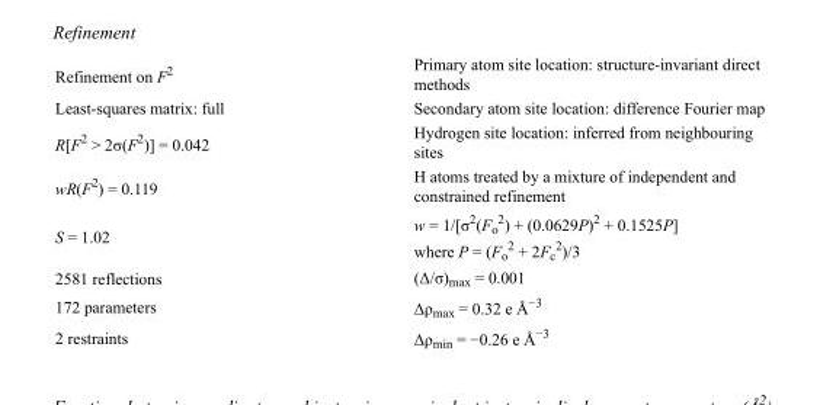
<table><tbody><tr><td>Refinement on F<sup>2</sup></td><td>Primary atom site location: structure-invariant direct methods</td></tr><tr><td>Least-squares matrix: full</td><td>Secondary atom site location: difference Fourier map</td></tr><tr><td>R[F<sup>2</sup> &gt; 2σ(F<sup>2</sup>)] = 0.042</td><td>Hydrogen site location: inferred from neighbouring sites</td></tr><tr><td>wR(F<sup>2</sup>) = 0.119</td><td>H atoms treated by a mixture of independent and constrained refinement</td></tr><tr><td>S = 1.02</td><td>w = 1/[σ<sup>2</sup>(F<sub>o</sub> <sup>2</sup>) + (0.0629P)<sup>2</sup> + 0.1525P] where P = (F<sub>o</sub> <sup>2</sup> + 2F<sub>c</sub> <sup>2</sup>)/3</td></tr><tr><td>2581 reflections</td><td>(Δ/σ)<sub>max</sub> = 0.001</td></tr><tr><td>172 parameters</td><td>Δρ<sub>max</sub> = 0.32 e Å<sup>−3</sup></td></tr><tr><td>2 restraints</td><td>Δρ<sub>min</sub> = −0.26 e Å<sup>−3</sup></td></tr></tbody></table>